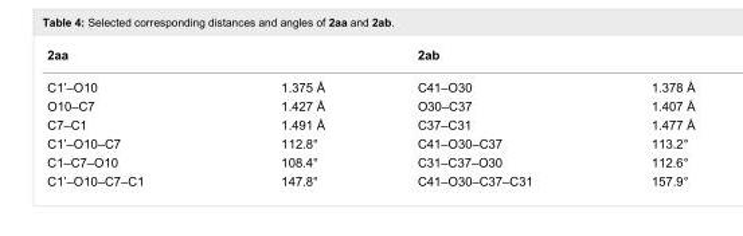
<table><tbody><tr><td colspan="2">2aa</td><td colspan="2">2ab</td></tr><tr><td>C1’–O10</td><td>1.375 Å</td><td>C41–O30</td><td>1.378 Å</td></tr><tr><td>O10–C7</td><td>1.427 Å</td><td>O30–C37</td><td>1.407 Å</td></tr><tr><td>C7–C1</td><td>1.491 Å</td><td>C37–C31</td><td>1.477 Å</td></tr><tr><td>C1’–O10–C7</td><td>112.8°</td><td>C41–O30–C37</td><td>113.2°</td></tr><tr><td>C1–C7–O10</td><td>108.4°</td><td>C31–C37–O30</td><td>112.6°</td></tr><tr><td>C1’–O10–C7–C1</td><td>147.8°</td><td>C41–O30–C37–C31</td><td>157.9°</td></tr></tbody></table>